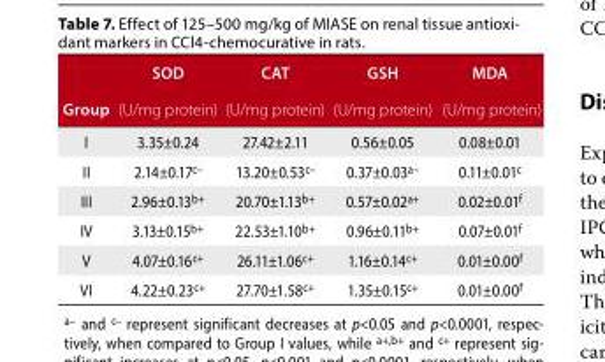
<table><thead><tr><td>Group</td><td>SOD (U/mg protein)</td><td>CAT (U/mg protein)</td><td>GSH (U/mg protein)</td><td>MDA (U/mg protein)</td></tr></thead><tbody><tr><td>I</td><td>3.35±0.24</td><td>27.42±2.11</td><td>0.56±0.05</td><td>0.08±0.01</td></tr><tr><td>II</td><td>2.14±0.17<sup>c–</sup></td><td>13.20±0.53<sup>c–</sup></td><td>0.37±0.03<sup>a–</sup></td><td>0.11±0.01<sup>c</sup></td></tr><tr><td>III</td><td>2.96±0.13<sup>b+</sup></td><td>20.70±1.13<sup>b+</sup></td><td>0.57±0.02<sup>a+</sup></td><td>0.02±0.01<sup>f</sup></td></tr><tr><td>IV</td><td>3.13±0.15<sup>b+</sup></td><td>22.53±1.10<sup>b+</sup></td><td>0.96±0.11<sup>b+</sup></td><td>0.07±0.01<sup>f</sup></td></tr><tr><td>V</td><td>4.07±0.16<sup>c+</sup></td><td>26.11±1.06<sup>c+</sup></td><td>1.16±0.14<sup>c+</sup></td><td>0.01±0.00<sup>f</sup></td></tr><tr><td>VI</td><td>4.22±0.23<sup>c+</sup></td><td>27.70±1.58<sup>c+</sup></td><td>1.35±0.15<sup>c+</sup></td><td>0.01±0.00<sup>f</sup></td></tr></tbody></table>